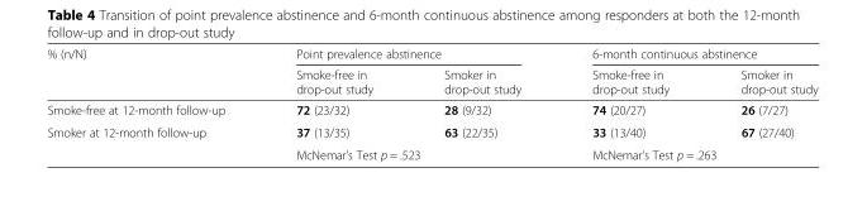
<table><thead><tr><td rowspan="2">% (n/N)</td><td colspan="2">Point prevalence abstinence</td><td colspan="2">6-month continuous abstinence</td></tr><tr><td>Smoke-free in drop-out study</td><td>Smoker in drop-out study</td><td>Smoke-free in drop-out study</td><td>Smoker in drop-out study</td></tr></thead><tbody><tr><td>Smoke-free at 12-month follow-up</td><td>72 (23/32)</td><td>28 (9/32)</td><td>74 (20/27)</td><td>26 (7/27)</td></tr><tr><td rowspan="2">Smoker at 12-month follow-up</td><td>37 (13/35)</td><td>63 (22/35)</td><td>33 (13/40)</td><td>67 (27/40)</td></tr><tr><td colspan="2">McNemar’s Test p = .523</td><td colspan="2">McNemar’s Test p = .263</td></tr></tbody></table>